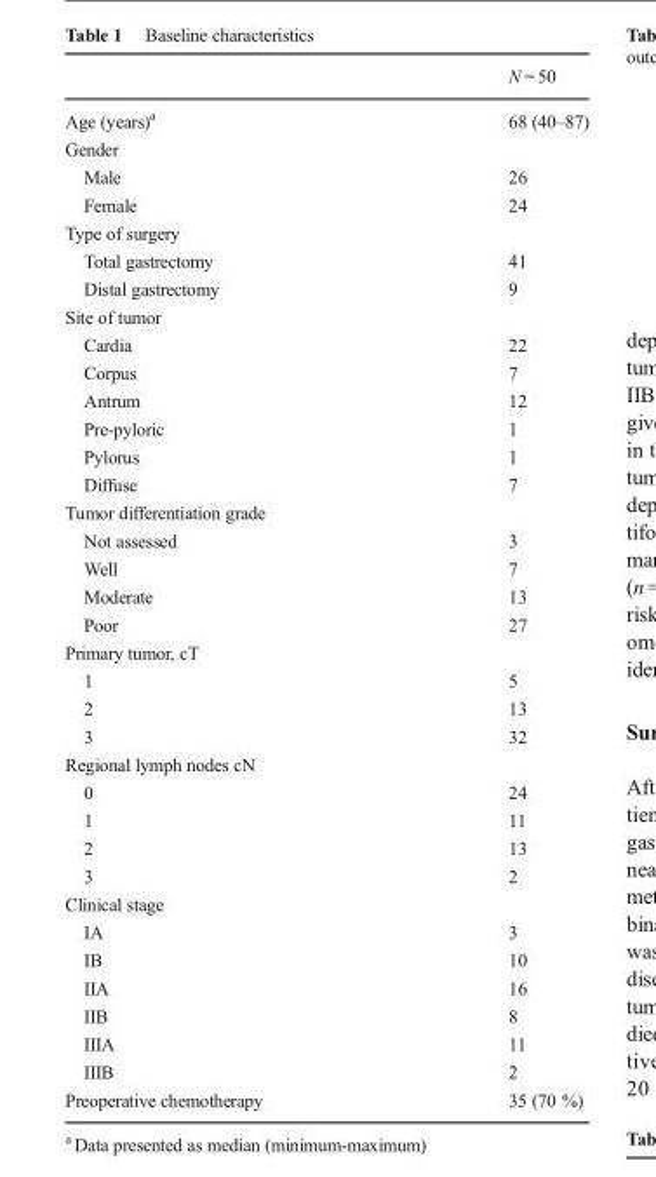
<table><thead><tr><td></td><td>N = 50</td></tr></thead><tbody><tr><td>Age (years)<sup>a</sup></td><td>68 (40–87)</td></tr><tr><td colspan="2">Gender</td></tr><tr><td>Male</td><td>26</td></tr><tr><td>Female</td><td>24</td></tr><tr><td colspan="2">Type of surgery</td></tr><tr><td>Total gastrectomy</td><td>41</td></tr><tr><td>Distal gastrectomy</td><td>9</td></tr><tr><td colspan="2">Site of tumor</td></tr><tr><td>Cardia</td><td>22</td></tr><tr><td>Corpus</td><td>7</td></tr><tr><td>Antrum</td><td>12</td></tr><tr><td>Pre-pyloric</td><td>1</td></tr><tr><td>Pylorus</td><td>1</td></tr><tr><td>Diffuse</td><td>7</td></tr><tr><td colspan="2">Tumor differentiation grade</td></tr><tr><td>Not assessed</td><td>3</td></tr><tr><td>Well</td><td>7</td></tr><tr><td>Moderate</td><td>13</td></tr><tr><td>Poor</td><td>27</td></tr><tr><td colspan="2">Primary tumor, cT</td></tr><tr><td>1</td><td>5</td></tr><tr><td>2</td><td>13</td></tr><tr><td>3</td><td>32</td></tr><tr><td colspan="2">Regional lymph nodes cN</td></tr><tr><td>0</td><td>24</td></tr><tr><td>1</td><td>11</td></tr><tr><td>2</td><td>13</td></tr><tr><td>3</td><td>2</td></tr><tr><td colspan="2">Clinical stage</td></tr><tr><td>IA</td><td>3</td></tr><tr><td>IB</td><td>10</td></tr><tr><td>IIA</td><td>16</td></tr><tr><td>IIB</td><td>8</td></tr><tr><td>IIIA</td><td>11</td></tr><tr><td>IIIB</td><td>2</td></tr><tr><td>Preoperative chemotherapy</td><td>35 (70 %)</td></tr></tbody></table>